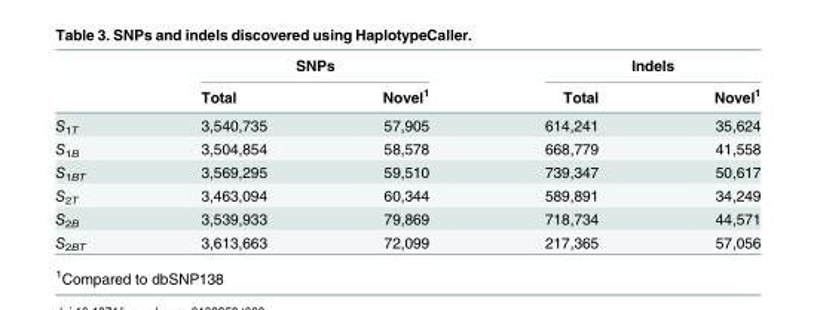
<table><thead><tr><td rowspan="2"></td><td colspan="2">SNPs</td><td colspan="2">Indels</td></tr><tr><td>Total</td><td>Novel<sup>1</sup></td><td>Total</td><td>Novel<sup>1</sup></td></tr></thead><tbody><tr><td>S<sub>1T</sub></td><td>3,540,735</td><td>57,905</td><td>614,241</td><td>35,624</td></tr><tr><td>S<sub>1B</sub></td><td>3,504,854</td><td>58,578</td><td>668,779</td><td>41,558</td></tr><tr><td>S<sub>1BT</sub></td><td>3,569,295</td><td>59,510</td><td>739,347</td><td>50,617</td></tr><tr><td>S<sub>2T</sub></td><td>3,463,094</td><td>60,344</td><td>589,891</td><td>34,249</td></tr><tr><td>S<sub>2B</sub></td><td>3,539,933</td><td>79,869</td><td>718,734</td><td>44,571</td></tr><tr><td>S<sub>2BT</sub></td><td>3,613,663</td><td>72,099</td><td>217,365</td><td>57,056</td></tr></tbody></table>